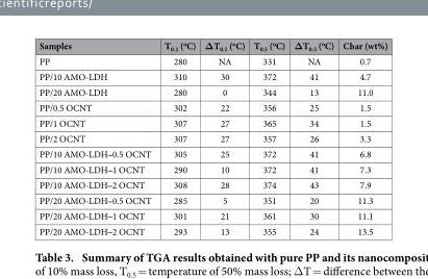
<table><thead><tr><td>Samples</td><td>T<sub>0.1</sub> (<sup>o</sup>C)</td><td>ΔT<sub>0.1</sub> (<sup>o</sup>C)</td><td>T<sub>0.5</sub> (<sup>o</sup>C)</td><td>ΔT<sub>0.5</sub> (<sup>o</sup>C)</td><td>Char (wt%)</td></tr></thead><tbody><tr><td>PP</td><td>280</td><td>NA</td><td>331</td><td>NA</td><td>0.7</td></tr><tr><td>PP/10 AMO-LDH</td><td>310</td><td>30</td><td>372</td><td>41</td><td>4.7</td></tr><tr><td>PP/20 AMO-LDH</td><td>280</td><td>0</td><td>344</td><td>13</td><td>11.0</td></tr><tr><td>PP/0.5 OCNT</td><td>302</td><td>22</td><td>356</td><td>25</td><td>1.5</td></tr><tr><td>PP/1 OCNT</td><td>307</td><td>27</td><td>365</td><td>34</td><td>1.5</td></tr><tr><td>PP/2 OCNT</td><td>307</td><td>27</td><td>357</td><td>26</td><td>3.3</td></tr><tr><td>PP/10 AMO-LDH‒ 0.5 OCNT</td><td>305</td><td>25</td><td>372</td><td>41</td><td>6.8</td></tr><tr><td>PP/10 AMO-LDH‒ 1 OCNT</td><td>290</td><td>10</td><td>372</td><td>41</td><td>7.3</td></tr><tr><td>PP/10 AMO-LDH‒ 2 OCNT</td><td>308</td><td>28</td><td>374</td><td>43</td><td>7.9</td></tr><tr><td>PP/20 AMO-LDH‒ 0.5 OCNT</td><td>285</td><td>5</td><td>351</td><td>20</td><td>11.3</td></tr><tr><td>PP/20 AMO-LDH‒ 1 OCNT</td><td>301</td><td>21</td><td>361</td><td>30</td><td>11.1</td></tr><tr><td>PP/20 AMO-LDH‒ 2 OCNT</td><td>293</td><td>13</td><td>355</td><td>24</td><td>13.5</td></tr></tbody></table>